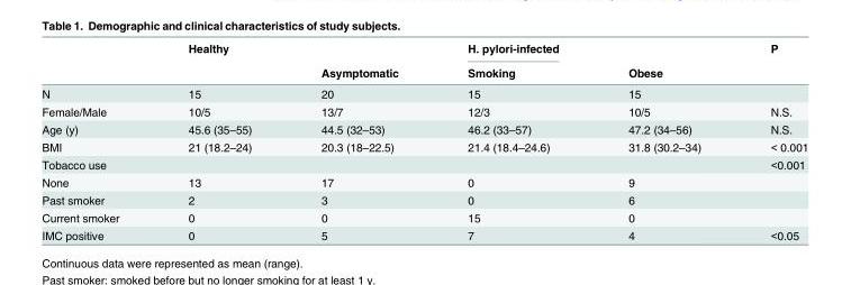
<table><thead><tr><td rowspan="2"></td><td rowspan="2">Healthy</td><td rowspan="2">Asymptomatic</td><td rowspan="2">H. pylori-infected Smoking</td><td rowspan="2">Obese</td><td rowspan="2">P</td></tr><tr></tr></thead><tbody><tr><td>N</td><td>15</td><td>20</td><td>15</td><td>15</td><td></td></tr><tr><td>Female/Male</td><td>10/5</td><td>13/7</td><td>12/3</td><td>10/5</td><td>N.S.</td></tr><tr><td>Age (y)</td><td>45.6 (35–55)</td><td>44.5 (32–53)</td><td>46.2 (33–57)</td><td>47.2 (34–56)</td><td>N.S.</td></tr><tr><td>BMI</td><td>21 (18.2–24)</td><td>20.3 (18–22.5)</td><td>21.4 (18.4–24.6)</td><td>31.8 (30.2–34)</td><td>&lt; 0.001</td></tr><tr><td>Tobacco use</td><td></td><td></td><td></td><td></td><td>&lt;0.001</td></tr><tr><td>None</td><td>13</td><td>17</td><td>0</td><td>9</td><td></td></tr><tr><td>Past smoker</td><td>2</td><td>3</td><td>0</td><td>6</td><td></td></tr><tr><td>Current smoker</td><td>0</td><td>0</td><td>15</td><td>0</td><td></td></tr><tr><td>IMC positive</td><td>0</td><td>5</td><td>7</td><td>4</td><td>&lt;0.05</td></tr></tbody></table>